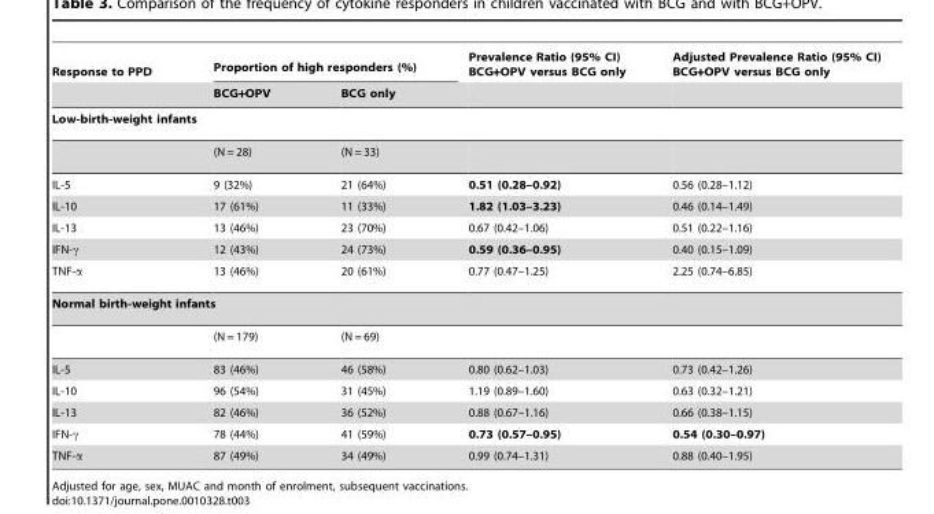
<table><thead><tr><td rowspan="2">Response to PPD</td><td colspan="2">Proportion of high responders (%)</td><td rowspan="2">Prevalence Ratio (95% CI) BCG+OPV versus BCG only</td><td rowspan="2">Adjusted Prevalence Ratio (95% CI) BCG+OPV versus BCG only</td></tr><tr><td>BCG+OPV</td><td>BCG only</td></tr></thead><tbody><tr><td colspan="5">Low-birth-weight infants</td></tr><tr><td></td><td>(N = 28)</td><td>(N = 33)</td><td></td><td></td></tr><tr><td>IL-5</td><td>9 (32%)</td><td>21 (64%)</td><td>0.51 (0.28–0.92)</td><td>0.56 (0.28–1.12)</td></tr><tr><td>IL-10</td><td>17 (61%)</td><td>11 (33%)</td><td>1.82 (1.03–3.23)</td><td>0.46 (0.14–1.49)</td></tr><tr><td>IL-13</td><td>13 (46%)</td><td>23 (70%)</td><td>0.67 (0.42–1.06)</td><td>0.51 (0.22–1.16)</td></tr><tr><td>IFN-γ</td><td>12 (43%)</td><td>24 (73%)</td><td>0.59 (0.36–0.95)</td><td>0.40 (0.15–1.09)</td></tr><tr><td>TNF-α</td><td>13 (46%)</td><td>20 (61%)</td><td>0.77 (0.47–1.25)</td><td>2.25 (0.74–6.85)</td></tr><tr><td colspan="5">Normal birth-weight infants</td></tr><tr><td></td><td>(N = 179)</td><td>(N = 69)</td><td></td><td></td></tr><tr><td>IL-5</td><td>83 (46%)</td><td>46 (58%)</td><td>0.80 (0.62–1.03)</td><td>0.73 (0.42–1.26)</td></tr><tr><td>IL-10</td><td>96 (54%)</td><td>31 (45%)</td><td>1.19 (0.89–1.60)</td><td>0.63 (0.32–1.21)</td></tr><tr><td>IL-13</td><td>82 (46%)</td><td>36 (52%)</td><td>0.88 (0.67–1.16)</td><td>0.66 (0.38–1.15)</td></tr><tr><td>IFN-γ</td><td>78 (44%)</td><td>41 (59%)</td><td>0.73 (0.57–0.95)</td><td>0.54 (0.30–0.97)</td></tr><tr><td>TNF-α</td><td>87 (49%)</td><td>34 (49%)</td><td>0.99 (0.74–1.31)</td><td>0.88 (0.40–1.95)</td></tr></tbody></table>